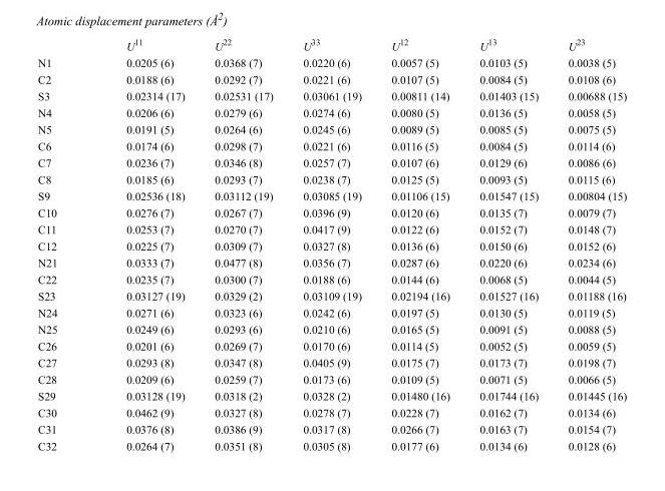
<table><thead><tr><td></td><td>U<sup>11</sup></td><td>U<sup>22</sup></td><td>U<sup>33</sup></td><td>U<sup>12</sup></td><td>U<sup>13</sup></td><td>U<sup>23</sup></td></tr></thead><tbody><tr><td>N1</td><td>0.0205 (6)</td><td>0.0368 (7)</td><td>0.0220 (6)</td><td>0.0057 (5)</td><td>0.0103 (5)</td><td>0.0038 (5)</td></tr><tr><td>C2</td><td>0.0188 (6)</td><td>0.0292 (7)</td><td>0.0221 (6)</td><td>0.0107 (5)</td><td>0.0084 (5)</td><td>0.0108 (6)</td></tr><tr><td>S3</td><td>0.02314 (17)</td><td>0.02531 (17)</td><td>0.03061 (19)</td><td>0.00811 (14)</td><td>0.01403 (15)</td><td>0.00688 (15)</td></tr><tr><td>N4</td><td>0.0206 (6)</td><td>0.0279 (6)</td><td>0.0274 (6)</td><td>0.0080 (5)</td><td>0.0136 (5)</td><td>0.0058 (5)</td></tr><tr><td>N5</td><td>0.0191 (5)</td><td>0.0264 (6)</td><td>0.0245 (6)</td><td>0.0089 (5)</td><td>0.0085 (5)</td><td>0.0075 (5)</td></tr><tr><td>C6</td><td>0.0174 (6)</td><td>0.0298 (7)</td><td>0.0221 (6)</td><td>0.0116 (5)</td><td>0.0084 (5)</td><td>0.0114 (6)</td></tr><tr><td>C7</td><td>0.0236 (7)</td><td>0.0346 (8)</td><td>0.0257 (7)</td><td>0.0107 (6)</td><td>0.0129 (6)</td><td>0.0086 (6)</td></tr><tr><td>C8</td><td>0.0185 (6)</td><td>0.0293 (7)</td><td>0.0238 (7)</td><td>0.0125 (5)</td><td>0.0093 (5)</td><td>0.0115 (6)</td></tr><tr><td>S9</td><td>0.02536 (18)</td><td>0.03112 (19)</td><td>0.03085 (19)</td><td>0.01106 (15)</td><td>0.01547 (15)</td><td>0.00804 (15)</td></tr><tr><td>C10</td><td>0.0276 (7)</td><td>0.0267 (7)</td><td>0.0396 (9)</td><td>0.0120 (6)</td><td>0.0135 (7)</td><td>0.0079 (7)</td></tr><tr><td>C11</td><td>0.0253 (7)</td><td>0.0270 (7)</td><td>0.0417 (9)</td><td>0.0122 (6)</td><td>0.0152 (7)</td><td>0.0148 (7)</td></tr><tr><td>C12</td><td>0.0225 (7)</td><td>0.0309 (7)</td><td>0.0327 (8)</td><td>0.0136 (6)</td><td>0.0150 (6)</td><td>0.0152 (6)</td></tr><tr><td>N21</td><td>0.0333 (7)</td><td>0.0477 (8)</td><td>0.0356 (7)</td><td>0.0287 (6)</td><td>0.0220 (6)</td><td>0.0234 (6)</td></tr><tr><td>C22</td><td>0.0235 (7)</td><td>0.0300 (7)</td><td>0.0188 (6)</td><td>0.0144 (6)</td><td>0.0068 (5)</td><td>0.0044 (5)</td></tr><tr><td>S23</td><td>0.03127 (19)</td><td>0.0329 (2)</td><td>0.03109 (19)</td><td>0.02194 (16)</td><td>0.01527 (16)</td><td>0.01188 (16)</td></tr><tr><td>N24</td><td>0.0271 (6)</td><td>0.0323 (6)</td><td>0.0242 (6)</td><td>0.0197 (5)</td><td>0.0130 (5)</td><td>0.0119 (5)</td></tr><tr><td>N25</td><td>0.0249 (6)</td><td>0.0293 (6)</td><td>0.0210 (6)</td><td>0.0165 (5)</td><td>0.0091 (5)</td><td>0.0088 (5)</td></tr><tr><td>C26</td><td>0.0201 (6)</td><td>0.0269 (7)</td><td>0.0170 (6)</td><td>0.0114 (5)</td><td>0.0052 (5)</td><td>0.0059 (5)</td></tr><tr><td>C27</td><td>0.0293 (8)</td><td>0.0347 (8)</td><td>0.0405 (9)</td><td>0.0175 (7)</td><td>0.0173 (7)</td><td>0.0198 (7)</td></tr><tr><td>C28</td><td>0.0209 (6)</td><td>0.0259 (7)</td><td>0.0173 (6)</td><td>0.0109 (5)</td><td>0.0071 (5)</td><td>0.0066 (5)</td></tr><tr><td>S29</td><td>0.03128 (19)</td><td>0.0318 (2)</td><td>0.0328 (2)</td><td>0.01480 (16)</td><td>0.01744 (16)</td><td>0.01445 (16)</td></tr><tr><td>C30</td><td>0.0462 (9)</td><td>0.0327 (8)</td><td>0.0278 (7)</td><td>0.0228 (7)</td><td>0.0162 (7)</td><td>0.0134 (6)</td></tr><tr><td>C31</td><td>0.0376 (8)</td><td>0.0386 (9)</td><td>0.0317 (8)</td><td>0.0266 (7)</td><td>0.0163 (7)</td><td>0.0154 (7)</td></tr><tr><td>C32</td><td>0.0264 (7)</td><td>0.0351 (8)</td><td>0.0305 (8)</td><td>0.0177 (6)</td><td>0.0134 (6)</td><td>0.0128 (6)</td></tr></tbody></table>